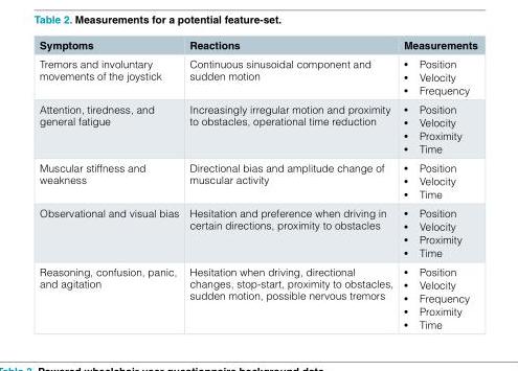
<table><thead><tr><td>Symptoms</td><td>Reactions</td><td>Measurements</td></tr></thead><tbody><tr><td>Tremors and involuntary movements of the joystick</td><td>Continuous sinusoidal component and sudden motion</td><td>• Position • Velocity • Frequency</td></tr><tr><td>Attention, tiredness, and general fatigue</td><td>Increasingly irregular motion and proximity to obstacles, operational time reduction</td><td>• Position • Velocity • Proximity • Time</td></tr><tr><td>Muscular stiffness and weakness</td><td>Directional bias and amplitude change of muscular activity</td><td>• Position • Velocity • Time</td></tr><tr><td>Observational and visual bias</td><td>Hesitation and preference when driving in certain directions, proximity to obstacles</td><td>• Position • Velocity • Proximity • Time</td></tr><tr><td>Reasoning, confusion, panic, and agitation</td><td>Hesitation when driving, directional changes, stop-start, proximity to obstacles, sudden motion, possible nervous tremors</td><td>• Position • Velocity • Frequency • Proximity • Time</td></tr></tbody></table>